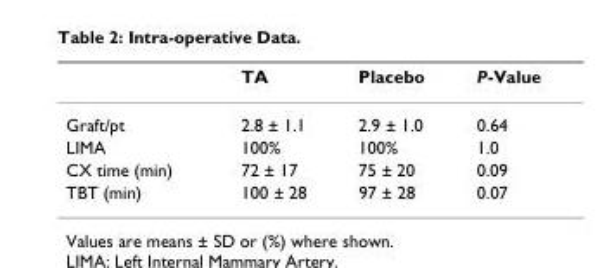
<table><thead><tr><td></td><td>TA</td><td>Placebo</td><td>P-Value</td></tr></thead><tbody><tr><td>Graft/pt</td><td>2.8 ± 1.1</td><td>2.9 ± 1.0</td><td>0.64</td></tr><tr><td>LIMA</td><td>100%</td><td>100%</td><td>1.0</td></tr><tr><td>CX time (min)</td><td>72 ± 17</td><td>75 ± 20</td><td>0.09</td></tr><tr><td>TBT (min)</td><td>100 ± 28</td><td>97 ± 28</td><td>0.07</td></tr></tbody></table>